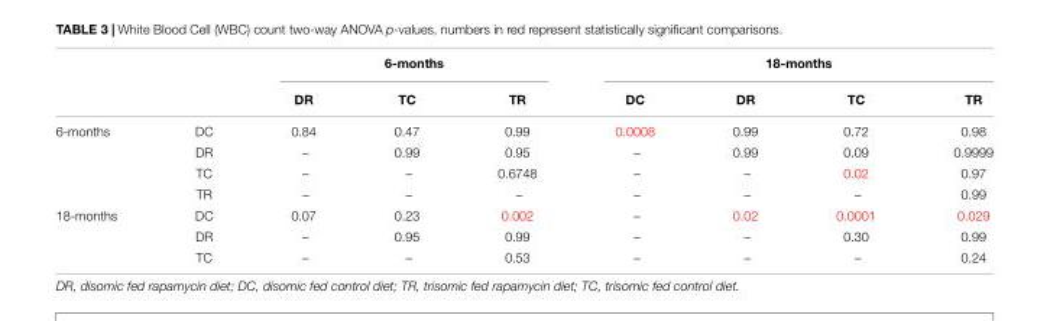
<table><thead><tr><td rowspan="2"></td><td rowspan="2"></td><td colspan="3">6-months</td><td colspan="4">18-months</td></tr><tr><td>DR</td><td>TC</td><td>TR</td><td>DC</td><td>DR</td><td>TC</td><td>TR</td></tr></thead><tbody><tr><td rowspan="4">6-months</td><td>DC</td><td>0.84</td><td>0.47</td><td>0.99</td><td>0.0008</td><td>0.99</td><td>0.72</td><td>0.98</td></tr><tr><td>DR</td><td>–</td><td>0.99</td><td>0.95</td><td>–</td><td>0.99</td><td>0.09</td><td>0.9999</td></tr><tr><td>TC</td><td>–</td><td>–</td><td>0.6748</td><td>–</td><td>–</td><td>0.02</td><td>0.97</td></tr><tr><td>TR</td><td>–</td><td>–</td><td>–</td><td>–</td><td>–</td><td>–</td><td>0.99</td></tr><tr><td rowspan="3">18-months</td><td>DC</td><td>0.07</td><td>0.23</td><td>0.002</td><td>–</td><td>0.02</td><td>0.0001</td><td>0.029</td></tr><tr><td>DR</td><td>–</td><td>0.95</td><td>0.99</td><td>–</td><td>–</td><td>0.30</td><td>0.99</td></tr><tr><td>TC</td><td>–</td><td>–</td><td>0.53</td><td>–</td><td>–</td><td>–</td><td>0.24</td></tr></tbody></table>